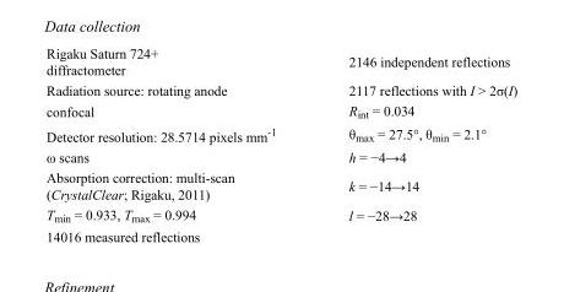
<table><tbody><tr><td>Rigaku Saturn 724+ diffractometer</td><td>2146 independent reflections</td></tr><tr><td>Radiation source: rotating anode</td><td>2117 reflections with I &gt; 2σ(I)</td></tr><tr><td>confocal</td><td>R<sub>int</sub> = 0.034</td></tr><tr><td>Detector resolution: 28.5714 pixels mm<sup>-1</sup></td><td>θ<sub>max</sub> = 27.5°, θ<sub>min</sub> = 2.1°</td></tr><tr><td>ω scans</td><td>h = −4→4</td></tr><tr><td>Absorption correction: multi-scan (CrystalClear; Rigaku, 2011)</td><td>k = −14→14</td></tr><tr><td>T<sub>min</sub> = 0.933, T<sub>max</sub> = 0.994</td><td>l = −28→28</td></tr><tr><td>14016 measured reflections</td><td></td></tr></tbody></table>